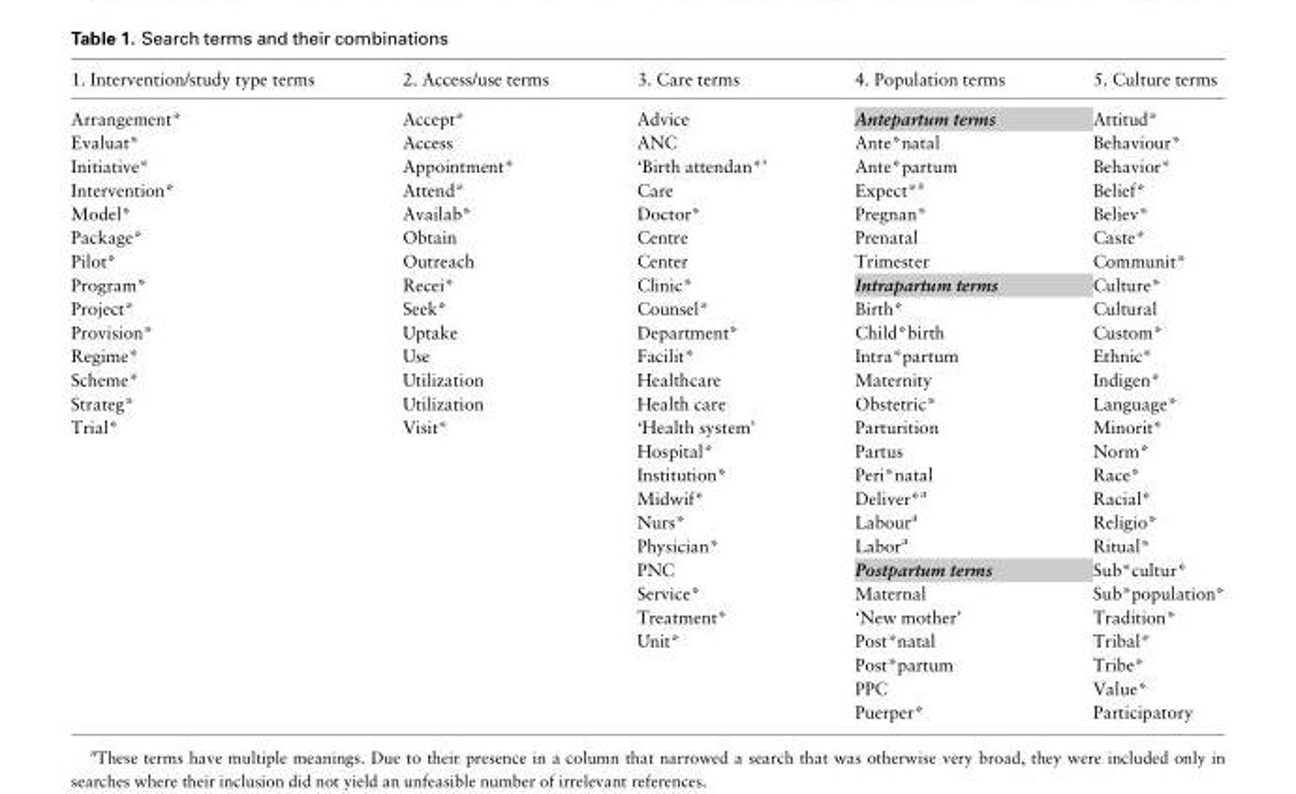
<table><tbody><tr><td>1. Intervention/study type terms</td><td>2. Access/use terms</td><td>3. Care terms</td><td>4. Population terms</td><td>5. Culture terms</td></tr><tr><td>Arrangement*</td><td>Accept*</td><td>Advice</td><td>Antepartum terms</td><td>Attitud*</td></tr><tr><td>Evaluat*</td><td>Access</td><td>ANC</td><td>Ante*natal</td><td>Behaviour*</td></tr><tr><td>Initiative*</td><td>Appointment*</td><td>‘Birth attendan*’</td><td>Ante*partum</td><td>Behavior*</td></tr><tr><td>Intervention*</td><td>Attend*</td><td>Care</td><td>Expect*<sup>a</sup></td><td>Belief*</td></tr><tr><td>Model*</td><td>Availab*</td><td>Doctor*</td><td>Pregnan*</td><td>Believ*</td></tr><tr><td>Package*</td><td>Obtain</td><td>Centre</td><td>Prenatal</td><td>Caste*</td></tr><tr><td>Pilot*</td><td>Outreach</td><td>Center</td><td>Trimester</td><td>Communit*</td></tr><tr><td>Program*</td><td>Recei*</td><td>Clinic*</td><td>Intrapartum terms</td><td>Culture*</td></tr><tr><td>Project*</td><td>Seek*</td><td>Counsel*</td><td>Birth*</td><td>Cultural</td></tr><tr><td>Provision*</td><td>Uptake</td><td>Department*</td><td>Child*birth</td><td>Custom*</td></tr><tr><td>Regime*</td><td>Use</td><td>Facilit*</td><td>Intra*partum</td><td>Ethnic*</td></tr><tr><td>Scheme*</td><td>Utilization</td><td>Healthcare</td><td>Maternity</td><td>Indigen*</td></tr><tr><td>Strateg*</td><td>Utilization</td><td>Health care</td><td>Obstetric*</td><td>Language*</td></tr><tr><td rowspan="13">Trial*</td><td>Visit*</td><td>‘Health system’</td><td>Parturition</td><td>Minorit*</td></tr><tr><td rowspan="12"></td><td>Hospital*</td><td>Partus</td><td>Norm*</td></tr><tr><td>Institution*</td><td>Peri*natal</td><td>Race*</td></tr><tr><td>Midwif*</td><td>Deliver*<sup>a</sup></td><td>Racial*</td></tr><tr><td>Nurs*</td><td>Labour<sup>a</sup></td><td>Religio*</td></tr><tr><td>Physician*</td><td>Labor<sup>a</sup></td><td>Ritual*</td></tr><tr><td>PNC</td><td>Postpartum terms</td><td>Sub*cultur*</td></tr><tr><td>Service*</td><td>Maternal</td><td>Sub*population*</td></tr><tr><td>Treatment*</td><td>‘New mother’</td><td>Tradition*</td></tr><tr><td>Unit*</td><td>Post*natal</td><td>Tribal*</td></tr><tr><td rowspan="3"></td><td>Post*partum</td><td>Tribe*</td></tr><tr><td>PPC</td><td>Value*</td></tr><tr><td>Puerper*</td><td>Participatory</td></tr></tbody></table>